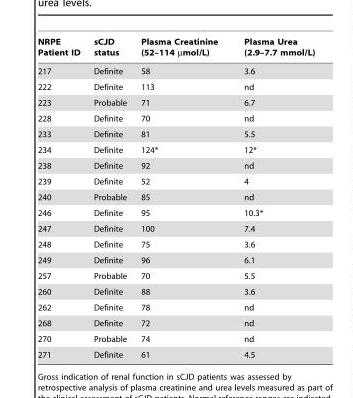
<table><thead><tr><td>NRPE Patient ID</td><td>sCJD status</td><td>Plasma Creatinine (52–114 µmol/L)</td><td>Plasma Urea (2.9–7.7 mmol/L)</td></tr></thead><tbody><tr><td>217</td><td>Definite</td><td>58</td><td>3.6</td></tr><tr><td>222</td><td>Definite</td><td>113</td><td>nd</td></tr><tr><td>223</td><td>Probable</td><td>71</td><td>6.7</td></tr><tr><td>228</td><td>Definite</td><td>70</td><td>nd</td></tr><tr><td>233</td><td>Definite</td><td>81</td><td>5.5</td></tr><tr><td>234</td><td>Definite</td><td>124*</td><td>12*</td></tr><tr><td>238</td><td>Definite</td><td>92</td><td>nd</td></tr><tr><td>239</td><td>Definite</td><td>52</td><td>4</td></tr><tr><td>240</td><td>Probable</td><td>85</td><td>nd</td></tr><tr><td>246</td><td>Definite</td><td>95</td><td>10.3*</td></tr><tr><td>247</td><td>Definite</td><td>100</td><td>7.4</td></tr><tr><td>248</td><td>Definite</td><td>75</td><td>3.6</td></tr><tr><td>249</td><td>Definite</td><td>96</td><td>6.1</td></tr><tr><td>257</td><td>Probable</td><td>70</td><td>5.5</td></tr><tr><td>260</td><td>Definite</td><td>88</td><td>3.6</td></tr><tr><td>262</td><td>Definite</td><td>78</td><td>nd</td></tr><tr><td>268</td><td>Definite</td><td>72</td><td>nd</td></tr><tr><td>270</td><td>Probable</td><td>74</td><td>nd</td></tr><tr><td>271</td><td>Definite</td><td>61</td><td>4.5</td></tr></tbody></table>